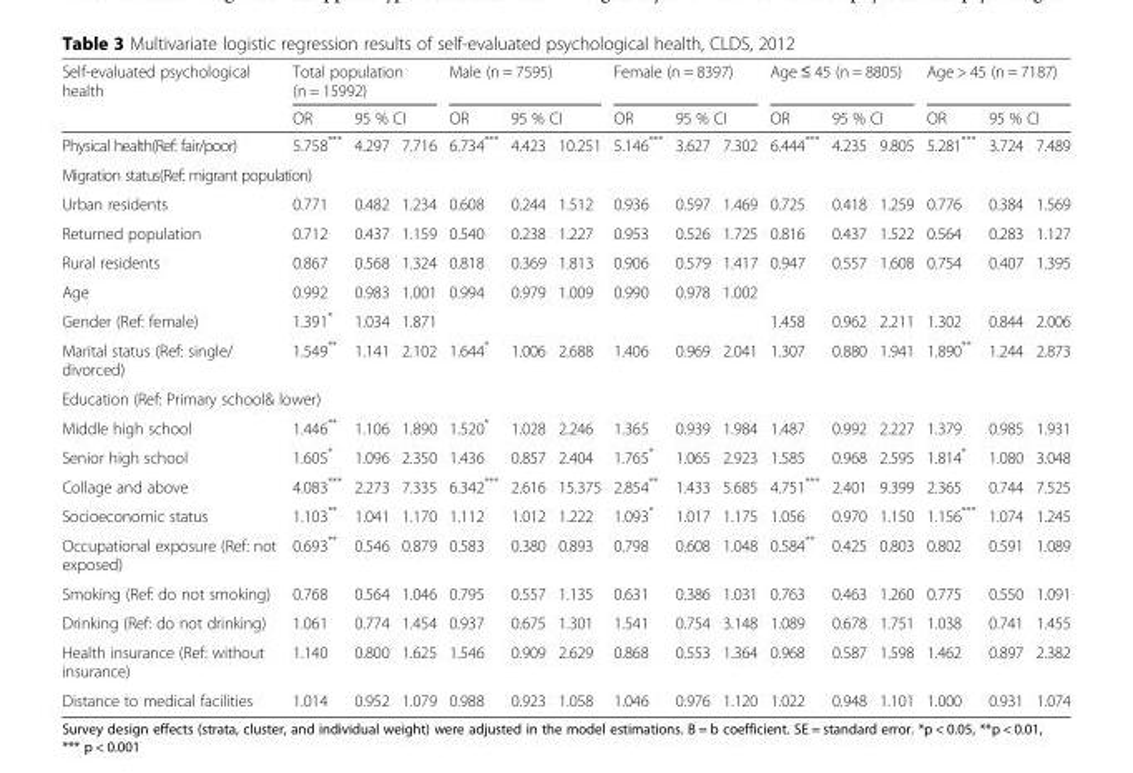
<table><thead><tr><td rowspan="3">Self-evaluated psychological health Physical health(Ref: fair/poor)</td><td colspan="3">Total population (n = 15992)</td><td colspan="3">Male (n = 7595)</td><td colspan="3">Female (n = 8397)</td><td colspan="3">Age ≤ 45 (n = 8805)</td><td colspan="3">Age &gt; 45 (n = 7187)</td></tr><tr><td rowspan="2">OR 5.758***</td><td colspan="2">95 % CI</td><td rowspan="2">OR 6.734***</td><td colspan="2">95 % CI</td><td rowspan="2">OR 5.146***</td><td colspan="2">95 % CI</td><td rowspan="2">OR 6.444***</td><td colspan="2">95 % CI</td><td rowspan="2">OR 5.281***</td><td colspan="2">95 % CI</td></tr><tr><td>4.297</td><td>7.716</td><td>4.423</td><td>10.251</td><td>3.627</td><td>7.302</td><td>4.235</td><td>9.805</td><td>3.724</td><td>7.489</td></tr></thead><tbody><tr><td colspan="16">Migration status(Ref: migrant population)</td></tr><tr><td>Urban residents</td><td>0.771</td><td>0.482</td><td>1.234</td><td>0.608</td><td>0.244</td><td>1.512</td><td>0.936</td><td>0.597</td><td>1.469</td><td>0.725</td><td>0.418</td><td>1.259</td><td>0.776</td><td>0.384</td><td>1.569</td></tr><tr><td>Returned population</td><td>0.712</td><td>0.437</td><td>1.159</td><td>0.540</td><td>0.238</td><td>1.227</td><td>0.953</td><td>0.526</td><td>1.725</td><td>0.816</td><td>0.437</td><td>1.522</td><td>0.564</td><td>0.283</td><td>1.127</td></tr><tr><td>Rural residents</td><td>0.867</td><td>0.568</td><td>1.324</td><td>0.818</td><td>0.369</td><td>1.813</td><td>0.906</td><td>0.579</td><td>1.417</td><td>0.947</td><td>0.557</td><td>1.608</td><td>0.754</td><td>0.407</td><td>1.395</td></tr><tr><td>Age</td><td>0.992</td><td>0.983</td><td>1.001</td><td>0.994</td><td>0.979</td><td>1.009</td><td>0.990</td><td>0.978</td><td>1.002</td><td></td><td></td><td></td><td></td><td></td><td></td></tr><tr><td>Gender (Ref: female)</td><td>1.391*</td><td>1.034</td><td>1.871</td><td></td><td></td><td></td><td></td><td></td><td></td><td>1.458</td><td>0.962</td><td>2.211</td><td>1.302</td><td>0.844</td><td>2.006</td></tr><tr><td>Marital status (Ref: single/ divorced)</td><td>1.549**</td><td>1.141</td><td>2.102</td><td>1.644*</td><td>1.006</td><td>2.688</td><td>1.406</td><td>0.969</td><td>2.041</td><td>1.307</td><td>0.880</td><td>1.941</td><td>1.890**</td><td>1.244</td><td>2.873</td></tr><tr><td colspan="16">Education (Ref: Primary school&amp; lower)</td></tr><tr><td>Middle high school</td><td>1.446**</td><td>1.106</td><td>1.890</td><td>1.520*</td><td>1.028</td><td>2.246</td><td>1.365</td><td>0.939</td><td>1.984</td><td>1.487</td><td>0.992</td><td>2.227</td><td>1.379</td><td>0.985</td><td>1.931</td></tr><tr><td>Senior high school</td><td>1.605*</td><td>1.096</td><td>2.350</td><td>1.436</td><td>0.857</td><td>2.404</td><td>1.765*</td><td>1.065</td><td>2.923</td><td>1.585</td><td>0.968</td><td>2.595</td><td>1.814*</td><td>1.080</td><td>3.048</td></tr><tr><td>Collage and above</td><td>4.083***</td><td>2.273</td><td>7.335</td><td>6.342***</td><td>2.616</td><td>15.375</td><td>2.854**</td><td>1.433</td><td>5.685</td><td>4.751***</td><td>2.401</td><td>9.399</td><td>2.365</td><td>0.744</td><td>7.525</td></tr><tr><td>Socioeconomic status</td><td>1.103**</td><td>1.041</td><td>1.170</td><td>1.112</td><td>1.012</td><td>1.222</td><td>1.093*</td><td>1.017</td><td>1.175</td><td>1.056</td><td>0.970</td><td>1.150</td><td>1.156***</td><td>1.074</td><td>1.245</td></tr><tr><td>Occupational exposure (Ref: not exposed)</td><td>0.693**</td><td>0.546</td><td>0.879</td><td>0.583</td><td>0.380</td><td>0.893</td><td>0.798</td><td>0.608</td><td>1.048</td><td>0.584**</td><td>0.425</td><td>0.803</td><td>0.802</td><td>0.591</td><td>1.089</td></tr><tr><td>Smoking (Ref: do not smoking)</td><td>0.768</td><td>0.564</td><td>1.046</td><td>0.795</td><td>0.557</td><td>1.135</td><td>0.631</td><td>0.386</td><td>1.031</td><td>0.763</td><td>0.463</td><td>1.260</td><td>0.775</td><td>0.550</td><td>1.091</td></tr><tr><td>Drinking (Ref: do not drinking)</td><td>1.061</td><td>0.774</td><td>1.454</td><td>0.937</td><td>0.675</td><td>1.301</td><td>1.541</td><td>0.754</td><td>3.148</td><td>1.089</td><td>0.678</td><td>1.751</td><td>1.038</td><td>0.741</td><td>1.455</td></tr><tr><td>Health insurance (Ref: without insurance)</td><td>1.140</td><td>0.800</td><td>1.625</td><td>1.546</td><td>0.909</td><td>2.629</td><td>0.868</td><td>0.553</td><td>1.364</td><td>0.968</td><td>0.587</td><td>1.598</td><td>1.462</td><td>0.897</td><td>2.382</td></tr><tr><td>Distance to medical facilities</td><td>1.014</td><td>0.952</td><td>1.079</td><td>0.988</td><td>0.923</td><td>1.058</td><td>1.046</td><td>0.976</td><td>1.120</td><td>1.022</td><td>0.948</td><td>1.101</td><td>1.000</td><td>0.931</td><td>1.074</td></tr></tbody></table>